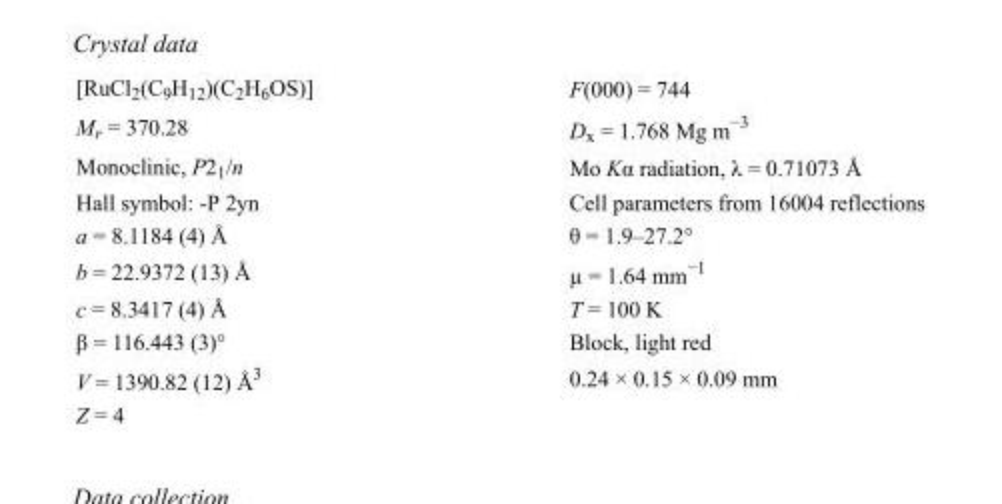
<table><tbody><tr><td>[RuCl<sub>2</sub>(C<sub>9</sub>H<sub>12</sub>)(C<sub>2</sub>H<sub>6</sub>OS)]</td><td>F(000) = 744</td></tr><tr><td>M<sub>r</sub> = 370.28</td><td>D<sub>x</sub> = 1.768 Mg m<sup>−3</sup></td></tr><tr><td>Monoclinic, P2<sub>1</sub>/n</td><td>Mo Kα radiation, λ = 0.71073 Å</td></tr><tr><td>Hall symbol: -P 2yn</td><td>Cell parameters from 16004 reflections</td></tr><tr><td>a = 8.1184 (4) Å</td><td>θ = 1.9–27.2°</td></tr><tr><td>b = 22.9372 (13) Å</td><td>µ = 1.64 mm<sup>−1</sup></td></tr><tr><td>c = 8.3417 (4) Å</td><td>T = 100 K</td></tr><tr><td>β = 116.443 (3)°</td><td>Block, light red</td></tr><tr><td>V = 1390.82 (12) Å<sup>3</sup></td><td>0.24 × 0.15 × 0.09 mm</td></tr><tr><td>Z = 4</td><td></td></tr></tbody></table>